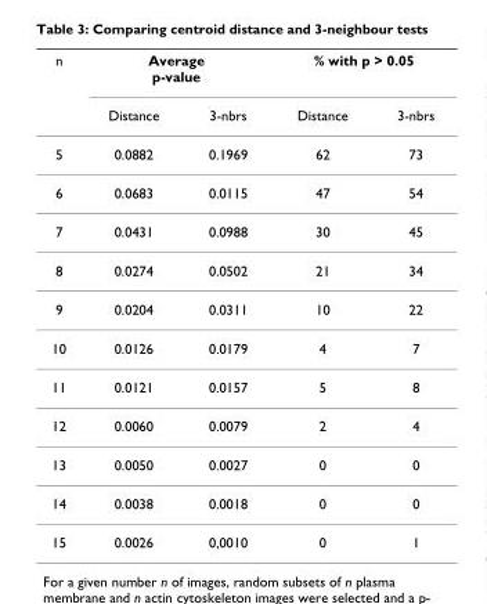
<table><thead><tr><td rowspan="2">n</td><td colspan="2">Average p-value</td><td colspan="2">% with p &gt; 0.05</td></tr><tr><td>Distance</td><td>3-nbrs</td><td>Distance</td><td>3-nbrs</td></tr></thead><tbody><tr><td>5</td><td>0.0882</td><td>0.1969</td><td>62</td><td>73</td></tr><tr><td>6</td><td>0.0683</td><td>0.0115</td><td>47</td><td>54</td></tr><tr><td>7</td><td>0.0431</td><td>0.0988</td><td>30</td><td>45</td></tr><tr><td>8</td><td>0.0274</td><td>0.0502</td><td>21</td><td>34</td></tr><tr><td>9</td><td>0.0204</td><td>0.0311</td><td>10</td><td>22</td></tr><tr><td>10</td><td>0.0126</td><td>0.0179</td><td>4</td><td>7</td></tr><tr><td>11</td><td>0.0121</td><td>0.0157</td><td>5</td><td>8</td></tr><tr><td>12</td><td>0.0060</td><td>0.0079</td><td>2</td><td>4</td></tr><tr><td>13</td><td>0.0050</td><td>0.0027</td><td>0</td><td>0</td></tr><tr><td>14</td><td>0.0038</td><td>0.0018</td><td>0</td><td>0</td></tr><tr><td>15</td><td>0.0026</td><td>0,0010</td><td>0</td><td>1</td></tr></tbody></table>